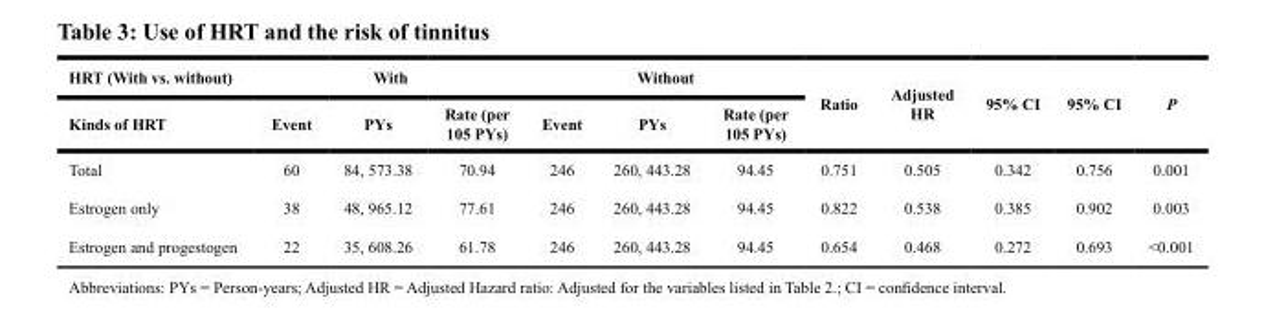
<table><thead><tr><td rowspan="2">HRT (With vs. without) Kinds of HRT</td><td colspan="3">With</td><td colspan="3">Without</td><td rowspan="2">Ratio</td><td rowspan="2">Adjusted HR</td><td rowspan="2">95% CI</td><td rowspan="2">95% CI</td><td rowspan="2">P</td></tr><tr><td>Event</td><td>PYs</td><td>Rate (per 105 PYs)</td><td>Event</td><td>PYs</td><td>Rate (per 105 PYs)</td></tr></thead><tbody><tr><td>Total</td><td>60</td><td>84, 573.38</td><td>70.94</td><td>246</td><td>260, 443.28</td><td>94.45</td><td>0.751</td><td>0.505</td><td>0.342</td><td>0.756</td><td>0.001</td></tr><tr><td>Estrogen only</td><td>38</td><td>48, 965.12</td><td>77.61</td><td>246</td><td>260, 443.28</td><td>94.45</td><td>0.822</td><td>0.538</td><td>0.385</td><td>0.902</td><td>0.003</td></tr><tr><td>Estrogen and progestogen</td><td>22</td><td>35, 608.26</td><td>61.78</td><td>246</td><td>260, 443.28</td><td>94.45</td><td>0.654</td><td>0.468</td><td>0.272</td><td>0.693</td><td>&lt;0.001</td></tr></tbody></table>